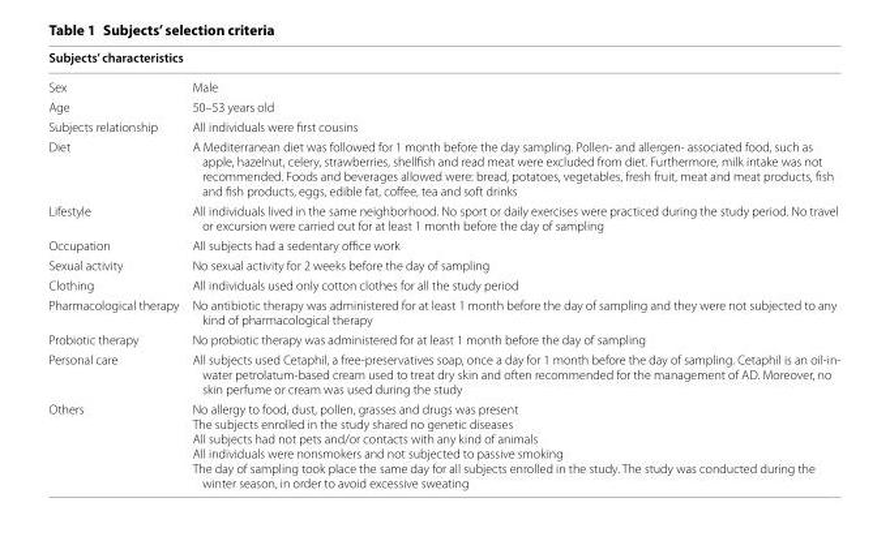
<table><thead><tr><td colspan="2">Subjects’ characteristics</td></tr><tr><td>Sex</td><td>Male</td></tr></thead><tbody><tr><td>Age</td><td>50–53 years old</td></tr><tr><td>Subjects relationship</td><td>All individuals were first cousins</td></tr><tr><td>Diet</td><td>A Mediterranean diet was followed for 1 month before the day sampling. Pollen- and allergen- associated food, such as apple, hazelnut, celery, strawberries, shellfish and read meat were excluded from diet. Furthermore, milk intake was not recommended. Foods and beverages allowed were: bread, potatoes, vegetables, fresh fruit, meat and meat products, fish and fish products, eggs, edible fat, coffee, tea and soft drinks</td></tr><tr><td>Lifestyle</td><td>All individuals lived in the same neighborhood. No sport or daily exercises were practiced during the study period. No travel or excursion were carried out for at least 1 month before the day of sampling</td></tr><tr><td>Occupation</td><td>All subjects had a sedentary office work</td></tr><tr><td>Sexual activity</td><td>No sexual activity for 2 weeks before the day of sampling</td></tr><tr><td>Clothing</td><td>All individuals used only cotton clothes for all the study period</td></tr><tr><td>Pharmacological therapy</td><td>No antibiotic therapy was administered for at least 1 month before the day of sampling and they were not subjected to any kind of pharmacological therapy</td></tr><tr><td>Probiotic therapy</td><td>No probiotic therapy was administered for at least 1 month before the day of sampling</td></tr><tr><td>Personal care</td><td>All subjects used Cetaphil, a free-preservatives soap, once a day for 1 month before the day of sampling. Cetaphil is an oil-in- water petrolatum-based cream used to treat dry skin and often recommended for the management of AD. Moreover, no skin perfume or cream was used during the study</td></tr><tr><td>Others</td><td>No allergy to food, dust, pollen, grasses and drugs was present The subjects enrolled in the study shared no genetic diseases All subjects had not pets and/or contacts with any kind of animals All individuals were nonsmokers and not subjected to passive smoking The day of sampling took place the same day for all subjects enrolled in the study. The study was conducted during the winter season, in order to avoid excessive sweating</td></tr></tbody></table>